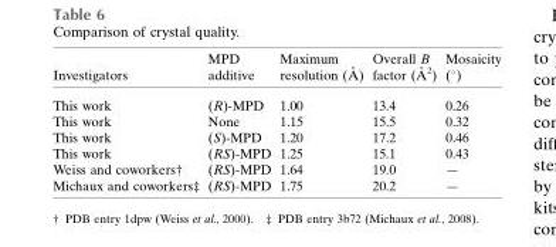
<table><thead><tr><td>Investigators</td><td>MPD additive</td><td>Maximum resolution (A˚ )</td><td>Overall B factor (A˚ 2)</td><td>Mosaicity (�)</td></tr></thead><tbody><tr><td>This work</td><td>(R)-MPD</td><td>1.00</td><td>13.4</td><td>0.26</td></tr><tr><td>This work</td><td>None</td><td>1.15</td><td>15.5</td><td>0.32</td></tr><tr><td>This work</td><td>(S)-MPD</td><td>1.20</td><td>17.2</td><td>0.46</td></tr><tr><td>This work</td><td>(RS)-MPD</td><td>1.25</td><td>15.1</td><td>0.43</td></tr><tr><td>Weiss and coworkers†</td><td>(RS)-MPD</td><td>1.64</td><td>19.0</td><td>—</td></tr><tr><td>Michaux and coworkers‡</td><td>(RS)-MPD</td><td>1.75</td><td>20.2</td><td>—</td></tr></tbody></table>